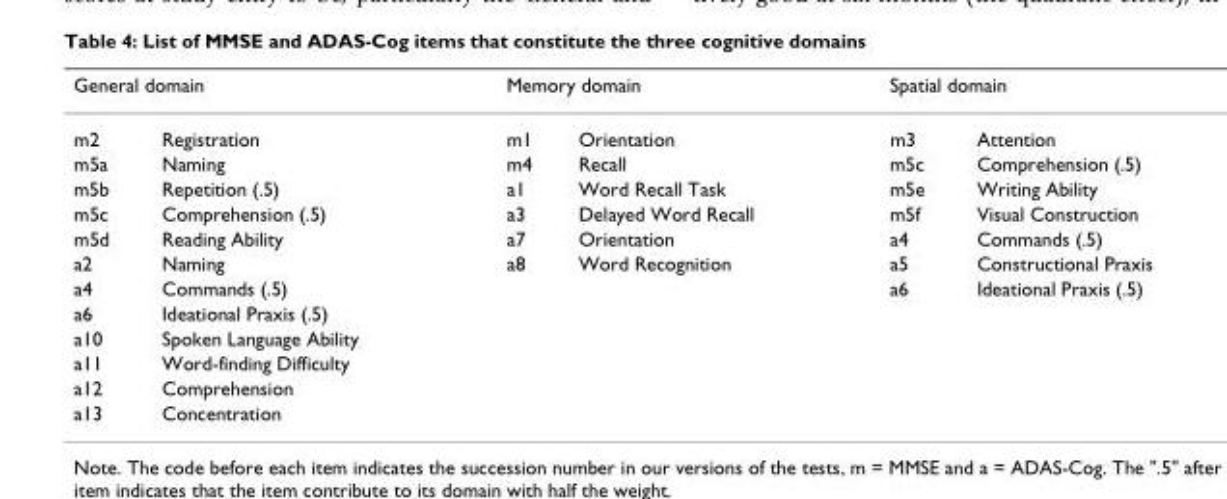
<table><thead><tr><td colspan="2">General domain</td><td colspan="2">Memory domain</td><td colspan="2">Spatial domain</td></tr><tr><td>m2</td><td>Registration</td><td>m1</td><td>Orientation</td><td>m3</td><td>Attention</td></tr></thead><tbody><tr><td>m5a</td><td>Naming</td><td>m4</td><td>Recall</td><td>m5c</td><td>Comprehension (.5)</td></tr><tr><td>m5b</td><td>Repetition (.5)</td><td>a1</td><td>Word Recall Task</td><td>m5e</td><td>Writing Ability</td></tr><tr><td>m5c</td><td>Comprehension (.5)</td><td>a3</td><td>Delayed Word Recall</td><td>m5f</td><td>Visual Construction</td></tr><tr><td>m5d</td><td>Reading Ability</td><td>a7</td><td>Orientation</td><td>a4</td><td>Commands (.5)</td></tr><tr><td>a2</td><td>Naming</td><td>a8</td><td>Word Recognition</td><td>a5</td><td>Constructional Praxis</td></tr><tr><td>a4</td><td>Commands (.5)</td><td></td><td></td><td>a6</td><td>Ideational Praxis (.5)</td></tr><tr><td>a6</td><td>Ideational Praxis (.5)</td><td></td><td></td><td></td><td></td></tr><tr><td>a10</td><td>Spoken Language Ability</td><td></td><td></td><td></td><td></td></tr><tr><td>a11</td><td>Word-finding Difficulty</td><td></td><td></td><td></td><td></td></tr><tr><td>a12</td><td>Comprehension</td><td></td><td></td><td></td><td></td></tr><tr><td>a13</td><td>Concentration</td><td></td><td></td><td></td><td></td></tr></tbody></table>